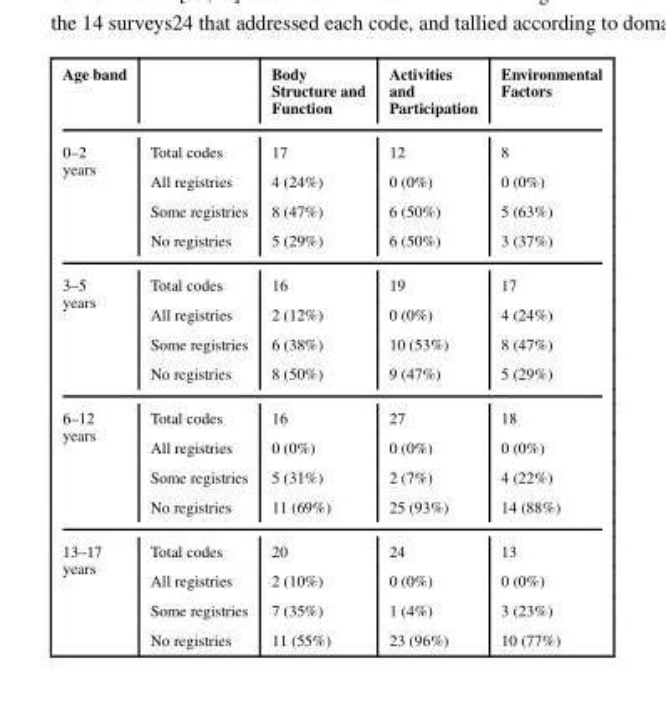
<table><thead><tr><td>Age band</td><td></td><td>Body Structure and Function</td><td>Activities and Participation</td><td>Environmental Factors</td></tr></thead><tbody><tr><td rowspan="4">0–2 years</td><td>Total codes</td><td>17</td><td>12</td><td>8</td></tr><tr><td>All registries</td><td>4 (24%)</td><td>0 (0%)</td><td>0 (0%)</td></tr><tr><td>Some registries</td><td>8 (47%)</td><td>6 (50%)</td><td>5 (63%)</td></tr><tr><td>No registries</td><td>5 (29%)</td><td>6 (50%)</td><td>3 (37%)</td></tr><tr><td rowspan="4">3–5 years</td><td>Total codes</td><td>16</td><td>19</td><td>17</td></tr><tr><td>All registries</td><td>2 (12%)</td><td>0 (0%)</td><td>4 (24%)</td></tr><tr><td>Some registries</td><td>6 (38%)</td><td>10 (53%)</td><td>8 (47%)</td></tr><tr><td>No registries</td><td>8 (50%)</td><td>9 (47%)</td><td>5 (29%)</td></tr><tr><td rowspan="4">6–12 years</td><td>Total codes</td><td>16</td><td>27</td><td>18</td></tr><tr><td>All registries</td><td>0 (0%)</td><td>0 (0%)</td><td>0 (0%)</td></tr><tr><td>Some registries</td><td>5 (31%)</td><td>2 (7%)</td><td>4 (22%)</td></tr><tr><td>No registries</td><td>11 (69%)</td><td>25 (93%)</td><td>14 (88%)</td></tr><tr><td rowspan="4">13–17 years</td><td>Total codes</td><td>20</td><td>24</td><td>13</td></tr><tr><td>All registries</td><td>2 (10%)</td><td>0 (0%)</td><td>0 (0%)</td></tr><tr><td>Some registries</td><td>7 (35%)</td><td>1 (4%)</td><td>3 (23%)</td></tr><tr><td>No registries</td><td>11 (55%)</td><td>23 (96%)</td><td>10 (77%)</td></tr></tbody></table>